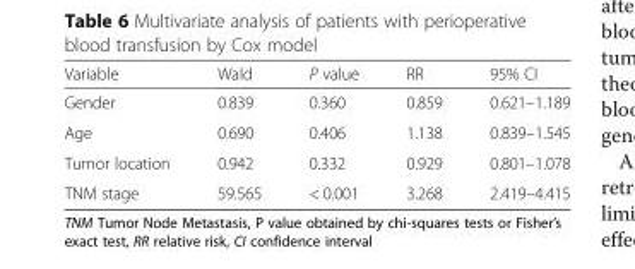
<table><thead><tr><td>Variable</td><td>Wald</td><td>P value</td><td>RR</td><td>95% CI</td></tr></thead><tbody><tr><td>Gender</td><td>0.839</td><td>0.360</td><td>0.859</td><td>0.621–1.189</td></tr><tr><td>Age</td><td>0.690</td><td>0.406</td><td>1.138</td><td>0.839–1.545</td></tr><tr><td>Tumor location</td><td>0.942</td><td>0.332</td><td>0.929</td><td>0.801–1.078</td></tr><tr><td>TNM stage</td><td>59.565</td><td>&lt; 0.001</td><td>3.268</td><td>2.419–4.415</td></tr></tbody></table>